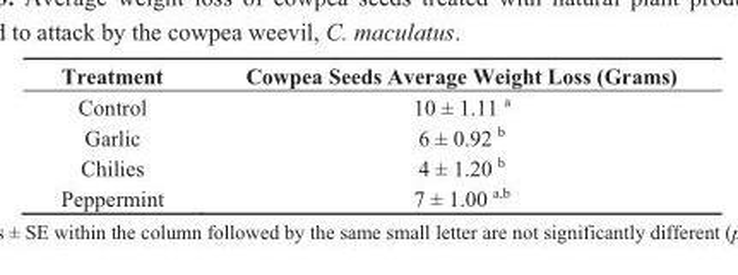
<table><thead><tr><td>Treatment</td><td>Cowpea Seeds Average Weight Loss (Grams)</td></tr></thead><tbody><tr><td>Control</td><td>10 ± 1.11 <sup>a</sup></td></tr><tr><td>Garlic</td><td>6 ± 0.92 <sup>b</sup></td></tr><tr><td>Chilies</td><td>4 ± 1.20 <sup>b</sup></td></tr><tr><td>Peppermint</td><td>7 ± 1.00 <sup>a,b</sup></td></tr></tbody></table>